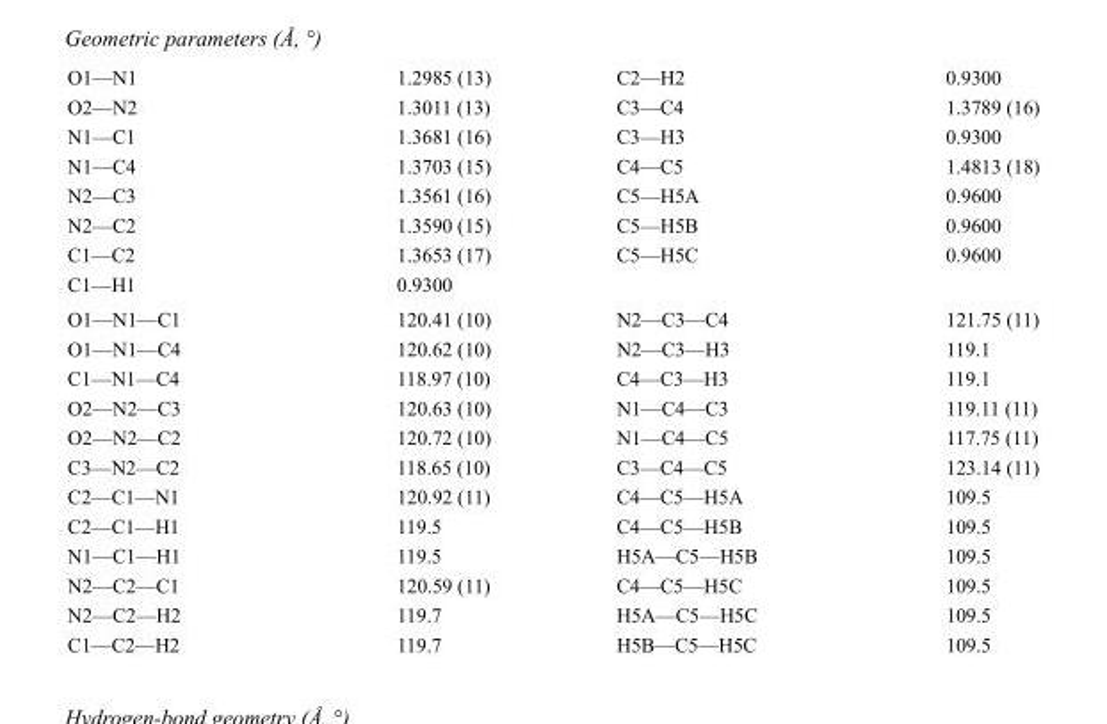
<table><tbody><tr><td>O1—N1</td><td>1.2985 (13)</td><td>C2—H2</td><td>0.9300</td></tr><tr><td>O2—N2</td><td>1.3011 (13)</td><td>C3—C4</td><td>1.3789 (16)</td></tr><tr><td>N1—C1</td><td>1.3681 (16)</td><td>C3—H3</td><td>0.9300</td></tr><tr><td>N1—C4</td><td>1.3703 (15)</td><td>C4—C5</td><td>1.4813 (18)</td></tr><tr><td>N2—C3</td><td>1.3561 (16)</td><td>C5—H5A</td><td>0.9600</td></tr><tr><td>N2—C2</td><td>1.3590 (15)</td><td>C5—H5B</td><td>0.9600</td></tr><tr><td>C1—C2</td><td>1.3653 (17)</td><td>C5—H5C</td><td>0.9600</td></tr><tr><td>C1—H1</td><td>0.9300</td><td></td><td></td></tr><tr><td>O1—N1—C1</td><td>120.41 (10)</td><td>N2—C3—C4</td><td>121.75 (11)</td></tr><tr><td>O1—N1—C4</td><td>120.62 (10)</td><td>N2—C3—H3</td><td>119.1</td></tr><tr><td>C1—N1—C4</td><td>118.97 (10)</td><td>C4—C3—H3</td><td>119.1</td></tr><tr><td>O2—N2—C3</td><td>120.63 (10)</td><td>N1—C4—C3</td><td>119.11 (11)</td></tr><tr><td>O2—N2—C2</td><td>120.72 (10)</td><td>N1—C4—C5</td><td>117.75 (11)</td></tr><tr><td>C3—N2—C2</td><td>118.65 (10)</td><td>C3—C4—C5</td><td>123.14 (11)</td></tr><tr><td>C2—C1—N1</td><td>120.92 (11)</td><td>C4—C5—H5A</td><td>109.5</td></tr><tr><td>C2—C1—H1</td><td>119.5</td><td>C4—C5—H5B</td><td>109.5</td></tr><tr><td>N1—C1—H1</td><td>119.5</td><td>H5A—C5—H5B</td><td>109.5</td></tr><tr><td>N2—C2—C1</td><td>120.59 (11)</td><td>C4—C5—H5C</td><td>109.5</td></tr><tr><td>N2—C2—H2</td><td>119.7</td><td>H5A—C5—H5C</td><td>109.5</td></tr><tr><td>C1—C2—H2</td><td>119.7</td><td>H5B—C5—H5C</td><td>109.5</td></tr></tbody></table>